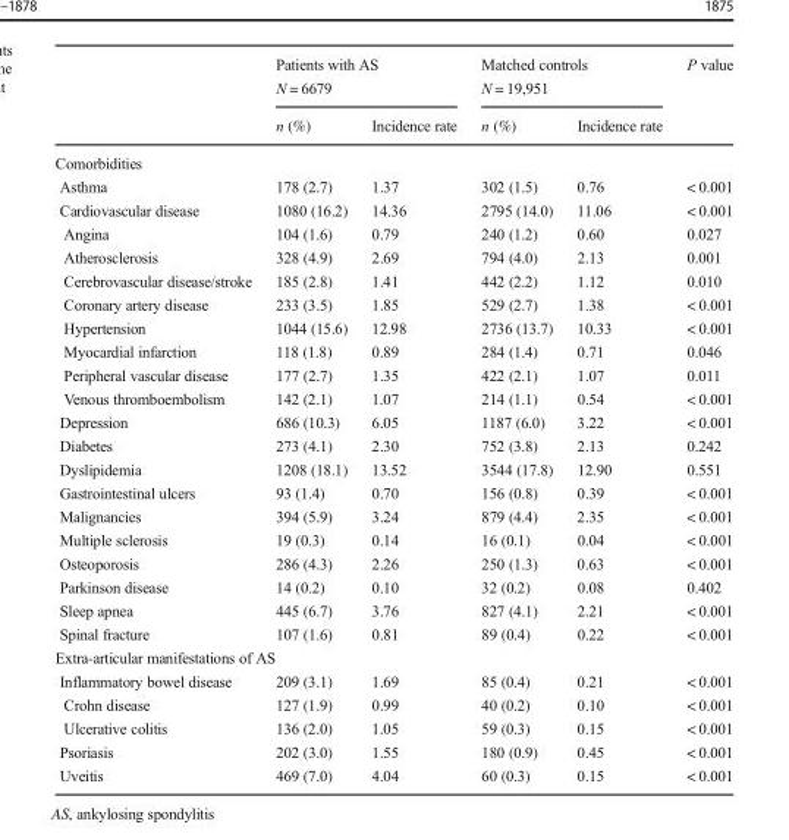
<table><thead><tr><td rowspan="2"></td><td colspan="2">Patients with AS N = 6679</td><td colspan="2">Matched controls N = 19,951</td><td rowspan="2">P value</td></tr><tr><td>n (%)</td><td>Incidence rate</td><td>n (%)</td><td>Incidence rate</td></tr></thead><tbody><tr><td colspan="6">Comorbidities</td></tr><tr><td>Asthma</td><td>178 (2.7)</td><td>1.37</td><td>302 (1.5)</td><td>0.76</td><td>&lt; 0.001</td></tr><tr><td>Cardiovascular disease</td><td>1080 (16.2)</td><td>14.36</td><td>2795 (14.0)</td><td>11.06</td><td>&lt; 0.001</td></tr><tr><td>Angina</td><td>104 (1.6)</td><td>0.79</td><td>240 (1.2)</td><td>0.60</td><td>0.027</td></tr><tr><td>Atherosclerosis</td><td>328 (4.9)</td><td>2.69</td><td>794 (4.0)</td><td>2.13</td><td>0.001</td></tr><tr><td>Cerebrovascular disease/stroke</td><td>185 (2.8)</td><td>1.41</td><td>442 (2.2)</td><td>1.12</td><td>0.010</td></tr><tr><td>Coronary artery disease</td><td>233 (3.5)</td><td>1.85</td><td>529 (2.7)</td><td>1.38</td><td>&lt; 0.001</td></tr><tr><td>Hypertension</td><td>1044 (15.6)</td><td>12.98</td><td>2736 (13.7)</td><td>10.33</td><td>&lt; 0.001</td></tr><tr><td>Myocardial infarction</td><td>118 (1.8)</td><td>0.89</td><td>284 (1.4)</td><td>0.71</td><td>0.046</td></tr><tr><td>Peripheral vascular disease</td><td>177 (2.7)</td><td>1.35</td><td>422 (2.1)</td><td>1.07</td><td>0.011</td></tr><tr><td>Venous thromboembolism</td><td>142 (2.1)</td><td>1.07</td><td>214 (1.1)</td><td>0.54</td><td>&lt; 0.001</td></tr><tr><td>Depression</td><td>686 (10.3)</td><td>6.05</td><td>1187 (6.0)</td><td>3.22</td><td>&lt; 0.001</td></tr><tr><td>Diabetes</td><td>273 (4.1)</td><td>2.30</td><td>752 (3.8)</td><td>2.13</td><td>0.242</td></tr><tr><td>Dyslipidemia</td><td>1208 (18.1)</td><td>13.52</td><td>3544 (17.8)</td><td>12.90</td><td>0.551</td></tr><tr><td>Gastrointestinal ulcers</td><td>93 (1.4)</td><td>0.70</td><td>156 (0.8)</td><td>0.39</td><td>&lt; 0.001</td></tr><tr><td>Malignancies</td><td>394 (5.9)</td><td>3.24</td><td>879 (4.4)</td><td>2.35</td><td>&lt; 0.001</td></tr><tr><td>Multiple sclerosis</td><td>19 (0.3)</td><td>0.14</td><td>16 (0.1)</td><td>0.04</td><td>&lt; 0.001</td></tr><tr><td>Osteoporosis</td><td>286 (4.3)</td><td>2.26</td><td>250 (1.3)</td><td>0.63</td><td>&lt; 0.001</td></tr><tr><td>Parkinson disease</td><td>14 (0.2)</td><td>0.10</td><td>32 (0.2)</td><td>0.08</td><td>0.402</td></tr><tr><td>Sleep apnea</td><td>445 (6.7)</td><td>3.76</td><td>827 (4.1)</td><td>2.21</td><td>&lt; 0.001</td></tr><tr><td>Spinal fracture</td><td>107 (1.6)</td><td>0.81</td><td>89 (0.4)</td><td>0.22</td><td>&lt; 0.001</td></tr><tr><td colspan="6">Extra-articular manifestations of AS</td></tr><tr><td>Inflammatory bowel disease</td><td>209 (3.1)</td><td>1.69</td><td>85 (0.4)</td><td>0.21</td><td>&lt; 0.001</td></tr><tr><td>Crohn disease</td><td>127 (1.9)</td><td>0.99</td><td>40 (0.2)</td><td>0.10</td><td>&lt; 0.001</td></tr><tr><td>Ulcerative colitis</td><td>136 (2.0)</td><td>1.05</td><td>59 (0.3)</td><td>0.15</td><td>&lt; 0.001</td></tr><tr><td>Psoriasis</td><td>202 (3.0)</td><td>1.55</td><td>180 (0.9)</td><td>0.45</td><td>&lt; 0.001</td></tr><tr><td>Uveitis</td><td>469 (7.0)</td><td>4.04</td><td>60 (0.3)</td><td>0.15</td><td>&lt; 0.001</td></tr></tbody></table>